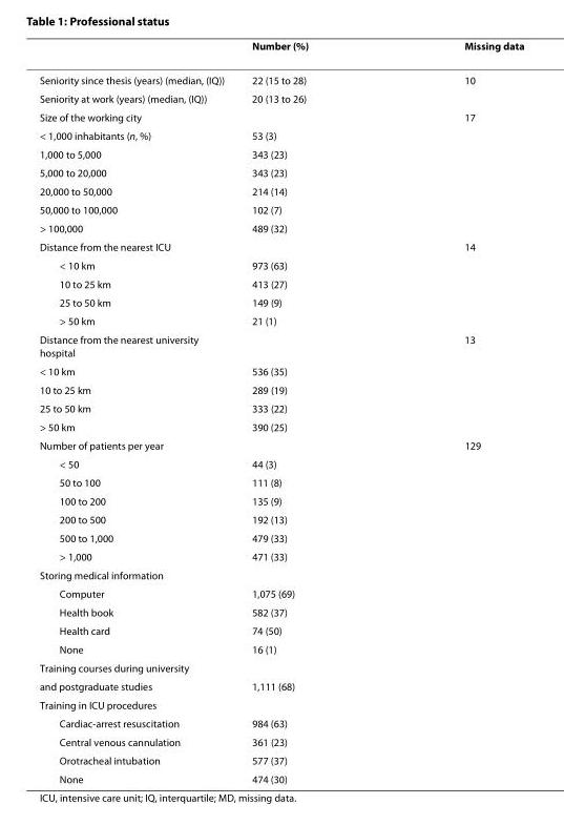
<table><thead><tr><td></td><td>Number (%)</td><td>Missing data</td></tr></thead><tbody><tr><td>Seniority since thesis (years) (median, (IQ))</td><td>22 (15 to 28)</td><td>10</td></tr><tr><td>Seniority at work (years) (median, (IQ))</td><td>20 (13 to 26)</td><td></td></tr><tr><td>Size of the working city</td><td></td><td>17</td></tr><tr><td>&lt; 1,000 inhabitants (n, %)</td><td>53 (3)</td><td></td></tr><tr><td>1,000 to 5,000</td><td>343 (23)</td><td></td></tr><tr><td>5,000 to 20,000</td><td>343 (23)</td><td></td></tr><tr><td>20,000 to 50,000</td><td>214 (14)</td><td></td></tr><tr><td>50,000 to 100,000</td><td>102 (7)</td><td></td></tr><tr><td>&gt; 100,000</td><td>489 (32)</td><td></td></tr><tr><td>Distance from the nearest ICU</td><td></td><td>14</td></tr><tr><td>&lt; 10 km</td><td>973 (63)</td><td></td></tr><tr><td>10 to 25 km</td><td>413 (27)</td><td></td></tr><tr><td>25 to 50 km</td><td>149 (9)</td><td></td></tr><tr><td>&gt; 50 km</td><td>21 (1)</td><td></td></tr><tr><td>Distance from the nearest university hospital</td><td></td><td>13</td></tr><tr><td>&lt; 10 km</td><td>536 (35)</td><td></td></tr><tr><td>10 to 25 km</td><td>289 (19)</td><td></td></tr><tr><td>25 to 50 km</td><td>333 (22)</td><td></td></tr><tr><td>&gt; 50 km</td><td>390 (25)</td><td></td></tr><tr><td>Number of patients per year</td><td></td><td>129</td></tr><tr><td>&lt; 50</td><td>44 (3)</td><td></td></tr><tr><td>50 to 100</td><td>111 (8)</td><td></td></tr><tr><td>100 to 200</td><td>135 (9)</td><td></td></tr><tr><td>200 to 500</td><td>192 (13)</td><td></td></tr><tr><td>500 to 1,000</td><td>479 (33)</td><td></td></tr><tr><td>&gt; 1,000</td><td>471 (33)</td><td></td></tr><tr><td colspan="3">Storing medical information</td></tr><tr><td>Computer</td><td>1,075 (69)</td><td></td></tr><tr><td>Health book</td><td>582 (37)</td><td></td></tr><tr><td>Health card</td><td>74 (50)</td><td></td></tr><tr><td>None</td><td>16 (1)</td><td></td></tr><tr><td colspan="3">Training courses during university</td></tr><tr><td>and postgraduate studies</td><td>1,111 (68)</td><td></td></tr><tr><td colspan="3">Training in ICU procedures</td></tr><tr><td>Cardiac-arrest resuscitation</td><td>984 (63)</td><td></td></tr><tr><td>Central venous cannulation</td><td>361 (23)</td><td></td></tr><tr><td>Orotracheal intubation</td><td>577 (37)</td><td></td></tr><tr><td>None</td><td>474 (30)</td><td></td></tr></tbody></table>